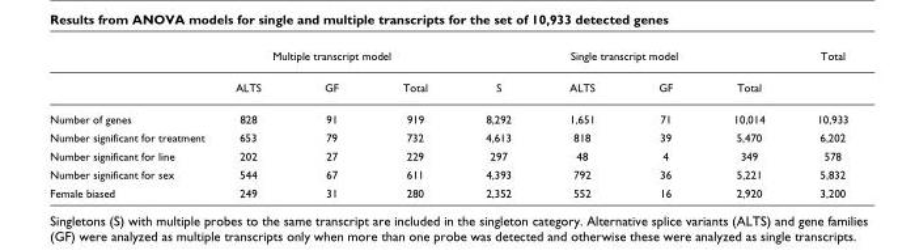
<table><thead><tr><td rowspan="2"></td><td colspan="3">Multiple transcript model</td><td colspan="4">Single transcript model</td><td rowspan="2">Total</td></tr><tr><td>ALTS</td><td>GF</td><td>Total</td><td>S</td><td>ALTS</td><td>GF</td><td>Total</td></tr></thead><tbody><tr><td>Number of genes</td><td>828</td><td>91</td><td>919</td><td>8,292</td><td>1,651</td><td>71</td><td>10,014</td><td>10,933</td></tr><tr><td>Number significant for treatment</td><td>653</td><td>79</td><td>732</td><td>4,613</td><td>818</td><td>39</td><td>5,470</td><td>6,202</td></tr><tr><td>Number significant for line</td><td>202</td><td>27</td><td>229</td><td>297</td><td>48</td><td>4</td><td>349</td><td>578</td></tr><tr><td>Number significant for sex</td><td>544</td><td>67</td><td>611</td><td>4,393</td><td>792</td><td>36</td><td>5,221</td><td>5,832</td></tr><tr><td>Female biased</td><td>249</td><td>31</td><td>280</td><td>2,352</td><td>552</td><td>16</td><td>2,920</td><td>3,200</td></tr></tbody></table>